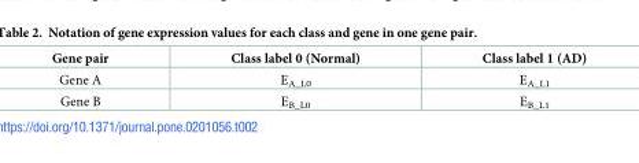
<table><thead><tr><td>Gene pair</td><td>Class label 0 (Normal)</td><td>Class label 1 (AD)</td></tr></thead><tbody><tr><td>Gene A</td><td>E<sub>A_L0</sub></td><td>E<sub>A_L1</sub></td></tr><tr><td>Gene B</td><td>E<sub>B_L0</sub></td><td>E<sub>B_L1</sub></td></tr></tbody></table>